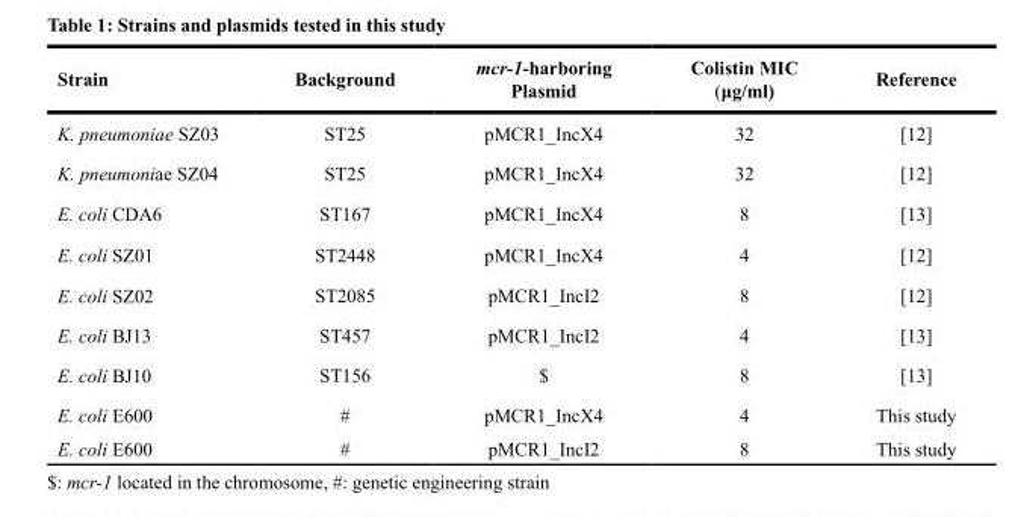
<table><thead><tr><td>Strain</td><td>Background</td><td>mcr-1-harboring Plasmid</td><td>Colistin MIC (μg/ml)</td><td>Reference</td></tr></thead><tbody><tr><td>K. pneumoniae SZ03</td><td>ST25</td><td>pMCR1_IncX4</td><td>32</td><td>[12]</td></tr><tr><td>K. pneumoniae SZ04</td><td>ST25</td><td>pMCR1_IncX4</td><td>32</td><td>[12]</td></tr><tr><td>E. coli CDA6</td><td>ST167</td><td>pMCR1_IncX4</td><td>8</td><td>[13]</td></tr><tr><td>E. coli SZ01</td><td>ST2448</td><td>pMCR1_IncX4</td><td>4</td><td>[12]</td></tr><tr><td>E. coli SZ02</td><td>ST2085</td><td>pMCR1_IncI2</td><td>8</td><td>[12]</td></tr><tr><td>E. coli BJ13</td><td>ST457</td><td>pMCR1_IncI2</td><td>4</td><td>[13]</td></tr><tr><td>E. coli BJ10</td><td>ST156</td><td>$</td><td>8</td><td>[13]</td></tr><tr><td>E. coli E600</td><td>#</td><td>pMCR1_IncX4</td><td>4</td><td>This study</td></tr><tr><td>E. coli E600</td><td>#</td><td>pMCR1_IncI2</td><td>8</td><td>This study</td></tr></tbody></table>